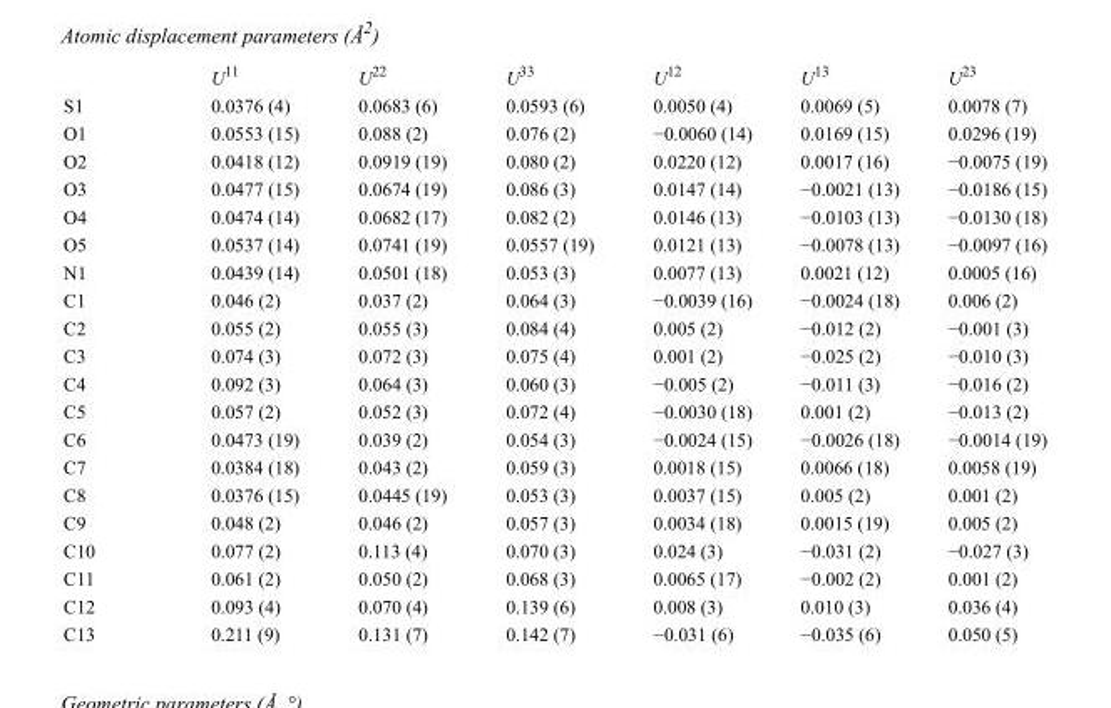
<table><thead><tr><td></td><td>U<sup>11</sup></td><td>U<sup>22</sup></td><td>U<sup>33</sup></td><td>U<sup>12</sup></td><td>U<sup>13</sup></td><td>U<sup>23</sup></td></tr></thead><tbody><tr><td>S1</td><td>0.0376 (4)</td><td>0.0683 (6)</td><td>0.0593 (6)</td><td>0.0050 (4)</td><td>0.0069 (5)</td><td>0.0078 (7)</td></tr><tr><td>O1</td><td>0.0553 (15)</td><td>0.088 (2)</td><td>0.076 (2)</td><td>−0.0060 (14)</td><td>0.0169 (15)</td><td>0.0296 (19)</td></tr><tr><td>O2</td><td>0.0418 (12)</td><td>0.0919 (19)</td><td>0.080 (2)</td><td>0.0220 (12)</td><td>0.0017 (16)</td><td>−0.0075 (19)</td></tr><tr><td>O3</td><td>0.0477 (15)</td><td>0.0674 (19)</td><td>0.086 (3)</td><td>0.0147 (14)</td><td>−0.0021 (13)</td><td>−0.0186 (15)</td></tr><tr><td>O4</td><td>0.0474 (14)</td><td>0.0682 (17)</td><td>0.082 (2)</td><td>0.0146 (13)</td><td>−0.0103 (13)</td><td>−0.0130 (18)</td></tr><tr><td>O5</td><td>0.0537 (14)</td><td>0.0741 (19)</td><td>0.0557 (19)</td><td>0.0121 (13)</td><td>−0.0078 (13)</td><td>−0.0097 (16)</td></tr><tr><td>N1</td><td>0.0439 (14)</td><td>0.0501 (18)</td><td>0.053 (3)</td><td>0.0077 (13)</td><td>0.0021 (12)</td><td>0.0005 (16)</td></tr><tr><td>C1</td><td>0.046 (2)</td><td>0.037 (2)</td><td>0.064 (3)</td><td>−0.0039 (16)</td><td>−0.0024 (18)</td><td>0.006 (2)</td></tr><tr><td>C2</td><td>0.055 (2)</td><td>0.055 (3)</td><td>0.084 (4)</td><td>0.005 (2)</td><td>−0.012 (2)</td><td>−0.001 (3)</td></tr><tr><td>C3</td><td>0.074 (3)</td><td>0.072 (3)</td><td>0.075 (4)</td><td>0.001 (2)</td><td>−0.025 (2)</td><td>−0.010 (3)</td></tr><tr><td>C4</td><td>0.092 (3)</td><td>0.064 (3)</td><td>0.060 (3)</td><td>−0.005 (2)</td><td>−0.011 (3)</td><td>−0.016 (2)</td></tr><tr><td>C5</td><td>0.057 (2)</td><td>0.052 (3)</td><td>0.072 (4)</td><td>−0.0030 (18)</td><td>0.001 (2)</td><td>−0.013 (2)</td></tr><tr><td>C6</td><td>0.0473 (19)</td><td>0.039 (2)</td><td>0.054 (3)</td><td>−0.0024 (15)</td><td>−0.0026 (18)</td><td>−0.0014 (19)</td></tr><tr><td>C7</td><td>0.0384 (18)</td><td>0.043 (2)</td><td>0.059 (3)</td><td>0.0018 (15)</td><td>0.0066 (18)</td><td>0.0058 (19)</td></tr><tr><td>C8</td><td>0.0376 (15)</td><td>0.0445 (19)</td><td>0.053 (3)</td><td>0.0037 (15)</td><td>0.005 (2)</td><td>0.001 (2)</td></tr><tr><td>C9</td><td>0.048 (2)</td><td>0.046 (2)</td><td>0.057 (3)</td><td>0.0034 (18)</td><td>0.0015 (19)</td><td>0.005 (2)</td></tr><tr><td>C10</td><td>0.077 (2)</td><td>0.113 (4)</td><td>0.070 (3)</td><td>0.024 (3)</td><td>−0.031 (2)</td><td>−0.027 (3)</td></tr><tr><td>C11</td><td>0.061 (2)</td><td>0.050 (2)</td><td>0.068 (3)</td><td>0.0065 (17)</td><td>−0.002 (2)</td><td>0.001 (2)</td></tr><tr><td>C12</td><td>0.093 (4)</td><td>0.070 (4)</td><td>0.139 (6)</td><td>0.008 (3)</td><td>0.010 (3)</td><td>0.036 (4)</td></tr><tr><td>C13</td><td>0.211 (9)</td><td>0.131 (7)</td><td>0.142 (7)</td><td>−0.031 (6)</td><td>−0.035 (6)</td><td>0.050 (5)</td></tr></tbody></table>